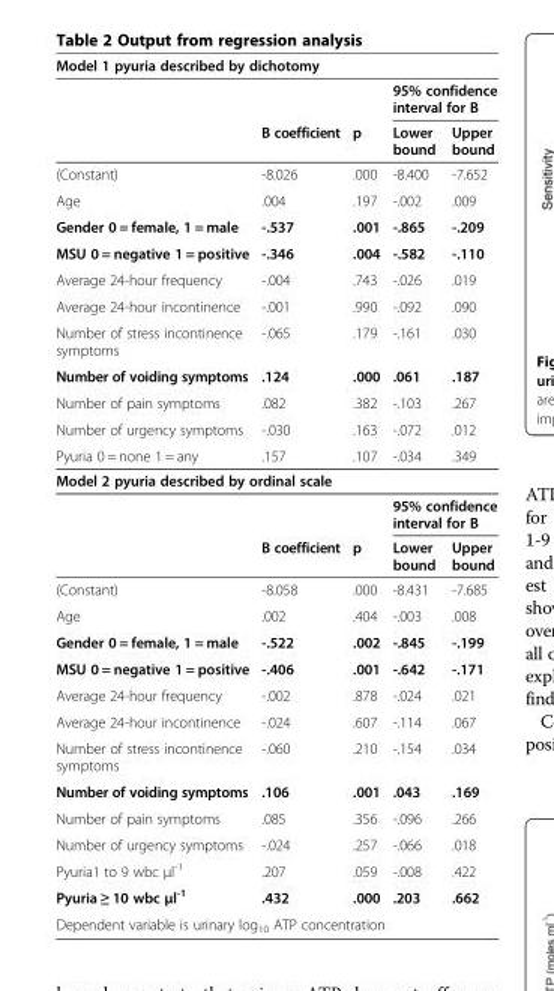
<table><thead><tr><td colspan="5">Model 1 pyuria described by dichotomy</td></tr><tr><td rowspan="2"></td><td rowspan="2">B coefficient</td><td rowspan="2">p</td><td colspan="2">95% confidence interval for B</td></tr><tr><td>Lower bound</td><td>Upper bound</td></tr></thead><tbody><tr><td>(Constant)</td><td>-8.026</td><td>.000</td><td>-8.400</td><td>-7.652</td></tr><tr><td>Age</td><td>.004</td><td>.197</td><td>-.002</td><td>.009</td></tr><tr><td>Gender 0 = female, 1 = male</td><td>-.537</td><td>.001</td><td>-.865</td><td>-.209</td></tr><tr><td>MSU 0 = negative 1 = positive</td><td>-.346</td><td>.004</td><td>-.582</td><td>-.110</td></tr><tr><td>Average 24-hour frequency</td><td>-.004</td><td>.743</td><td>-.026</td><td>.019</td></tr><tr><td>Average 24-hour incontinence</td><td>-.001</td><td>.990</td><td>-.092</td><td>.090</td></tr><tr><td>Number of stress incontinence symptoms</td><td>-.065</td><td>.179</td><td>-.161</td><td>.030</td></tr><tr><td>Number of voiding symptoms</td><td>.124</td><td>.000</td><td>.061</td><td>.187</td></tr><tr><td>Number of pain symptoms</td><td>.082</td><td>.382</td><td>-.103</td><td>.267</td></tr><tr><td>Number of urgency symptoms</td><td>-.030</td><td>.163</td><td>-.072</td><td>.012</td></tr><tr><td>Pyuria 0 = none 1 = any</td><td>.157</td><td>.107</td><td>-.034</td><td>.349</td></tr><tr><td colspan="5">Model 2 pyuria described by ordinal scale</td></tr><tr><td colspan="3"></td><td colspan="2">95% confidence interval for B</td></tr><tr><td></td><td>B coefficient</td><td>p</td><td>Lower bound</td><td>Upper bound</td></tr><tr><td>(Constant)</td><td>-8.058</td><td>.000</td><td>-8.431</td><td>-7.685</td></tr><tr><td>Age</td><td>.002</td><td>.404</td><td>-.003</td><td>.008</td></tr><tr><td>Gender 0 = female, 1 = male</td><td>-.522</td><td>.002</td><td>-.845</td><td>-.199</td></tr><tr><td>MSU 0 = negative 1 = positive</td><td>-.406</td><td>.001</td><td>-.642</td><td>-.171</td></tr><tr><td>Average 24-hour frequency</td><td>-.002</td><td>.878</td><td>-.024</td><td>.021</td></tr><tr><td>Average 24-hour incontinence</td><td>-.024</td><td>.607</td><td>-.114</td><td>.067</td></tr><tr><td>Number of stress incontinence symptoms</td><td>-.060</td><td>.210</td><td>-.154</td><td>.034</td></tr><tr><td>Number of voiding symptoms</td><td>.106</td><td>.001</td><td>.043</td><td>.169</td></tr><tr><td>Number of pain symptoms</td><td>.085</td><td>.356</td><td>-.096</td><td>.266</td></tr><tr><td>Number of urgency symptoms</td><td>-.024</td><td>.257</td><td>-.066</td><td>.018</td></tr><tr><td>Pyuria1 to 9 wbc μl<sup>-1</sup></td><td>.207</td><td>.059</td><td>-.008</td><td>.422</td></tr><tr><td>Pyuria ≥ 10 wbc μl<sup>-1</sup></td><td>.432</td><td>.000</td><td>.203</td><td>.662</td></tr><tr><td colspan="5">Dependent variable is urinary log<sub>10</sub> ATP concentration</td></tr></tbody></table>